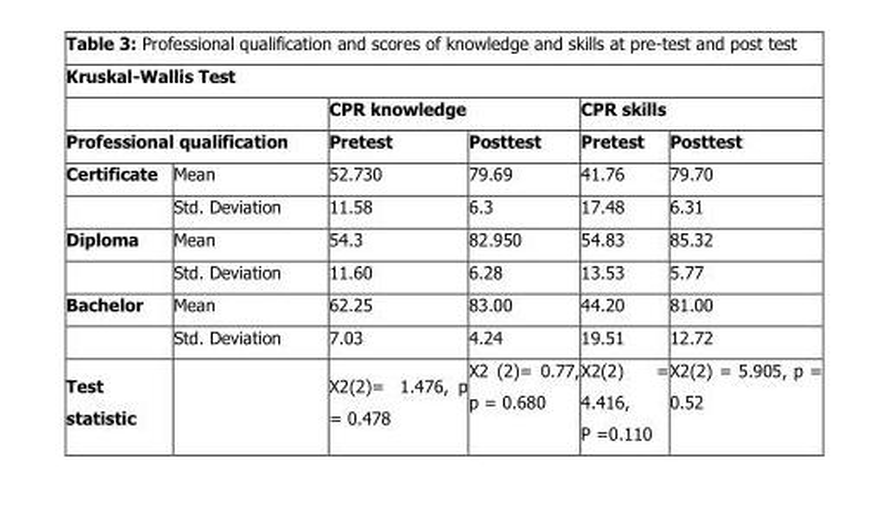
<table><thead><tr><td colspan="6">Kruskal-Wallis Test</td></tr><tr><td></td><td></td><td colspan="2">CPR knowledge</td><td colspan="2">CPR skills</td></tr><tr><td colspan="2">Professional qualification</td><td>Pretest</td><td>Posttest</td><td>Pretest</td><td>Posttest</td></tr></thead><tbody><tr><td rowspan="2">Certificate</td><td>Mean</td><td>52.730</td><td>79.69</td><td>41.76</td><td>79.70</td></tr><tr><td>Std. Deviation</td><td>11.58</td><td>6.3</td><td>17.48</td><td>6.31</td></tr><tr><td rowspan="2">Diploma</td><td>Mean</td><td>54.3</td><td>82.950</td><td>54.83</td><td>85.32</td></tr><tr><td>Std. Deviation</td><td>11.60</td><td>6.28</td><td>13.53</td><td>5.77</td></tr><tr><td rowspan="2">Bachelor</td><td>Mean</td><td>62.25</td><td>83.00</td><td>44.20</td><td>81.00</td></tr><tr><td>Std. Deviation</td><td>7.03</td><td>4.24</td><td>19.51</td><td>12.72</td></tr><tr><td>Test statistic</td><td></td><td>X2(2)= 1.476, p = 0.478</td><td>X2 (2)= 0.77, p = 0.680</td><td>X2(2) = 4.416, P =0.110</td><td>X2(2) = 5.905, p = 0.52</td></tr></tbody></table>